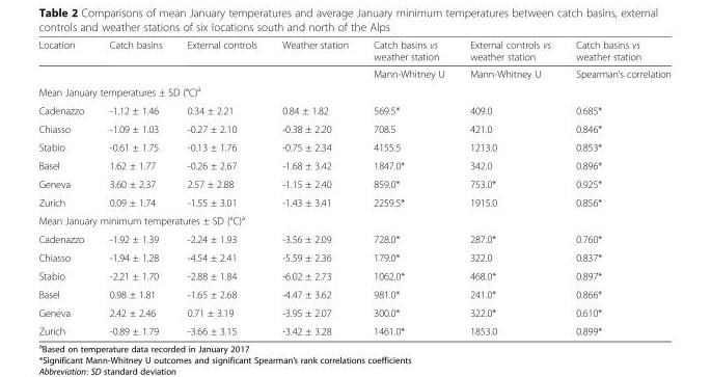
<table><thead><tr><td>Location</td><td>Catch basins</td><td>External controls</td><td>Weather station</td><td>Catch basins vs weather station</td><td>External controls vs weather station</td><td>Catch basins vs weather station</td></tr></thead><tbody><tr><td></td><td colspan="3"></td><td>Mann-Whitney U</td><td>Mann-Whitney U</td><td>Spearman’s correlation</td></tr><tr><td colspan="7">Mean January temperatures ± SD (°C)<sup>a</sup></td></tr><tr><td>Cadenazzo</td><td>-1.12 ± 1.46</td><td>0.34 ± 2.21</td><td>0.84 ± 1.82</td><td>569.5*</td><td>409.0</td><td>0.685*</td></tr><tr><td>Chiasso</td><td>-1.09 ± 1.03</td><td>-0.27 ± 2.10</td><td>-0.38 ± 2.20</td><td>708.5</td><td>421.0</td><td>0.846*</td></tr><tr><td>Stabio</td><td>-0.61 ± 1.75</td><td>-0.13 ± 1.76</td><td>-0.75 ± 2.34</td><td>4155.5</td><td>1213.0</td><td>0.853*</td></tr><tr><td>Basel</td><td>1.62 ± 1.77</td><td>-0.26 ± 2.67</td><td>-1.68 ± 3.42</td><td>1847.0*</td><td>342.0</td><td>0.896*</td></tr><tr><td>Geneva</td><td>3.60 ± 2.37</td><td>2.57 ± 2.88</td><td>-1.15 ± 2.40</td><td>859.0*</td><td>753.0*</td><td>0.925*</td></tr><tr><td>Zurich</td><td>0.09 ± 1.74</td><td>-1.55 ± 3.01</td><td>-1.43 ± 3.41</td><td>2259.5*</td><td>1915.0</td><td>0.856*</td></tr><tr><td colspan="7">Mean January minimum temperatures ± SD (°C)<sup>a</sup></td></tr><tr><td>Cadenazzo</td><td>-1.92 ± 1.39</td><td>-2.24 ± 1.93</td><td>-3.56 ± 2.09</td><td>728.0*</td><td>287.0*</td><td>0.760*</td></tr><tr><td>Chiasso</td><td>-1.94 ± 1.28</td><td>-4.54 ± 2.41</td><td>-5.59 ± 2.36</td><td>179.0*</td><td>322.0</td><td>0.837*</td></tr><tr><td>Stabio</td><td>-2.21 ± 1.70</td><td>-2.88 ± 1.84</td><td>-6.02 ± 2.73</td><td>1062.0*</td><td>468.0*</td><td>0.897*</td></tr><tr><td>Basel</td><td>0.98 ± 1.81</td><td>-1.65 ± 2.68</td><td>-4.47 ± 3.62</td><td>981.0*</td><td>241.0*</td><td>0.866*</td></tr><tr><td>Geneva</td><td>2.42 ± 2.46</td><td>0.71 ± 3.19</td><td>-3.95 ± 2.07</td><td>300.0*</td><td>322.0*</td><td>0.610*</td></tr><tr><td>Zurich</td><td>-0.89 ± 1.79</td><td>-3.66 ± 3.15</td><td>-3.42 ± 3.28</td><td>1461.0*</td><td>1853.0</td><td>0.899*</td></tr></tbody></table>